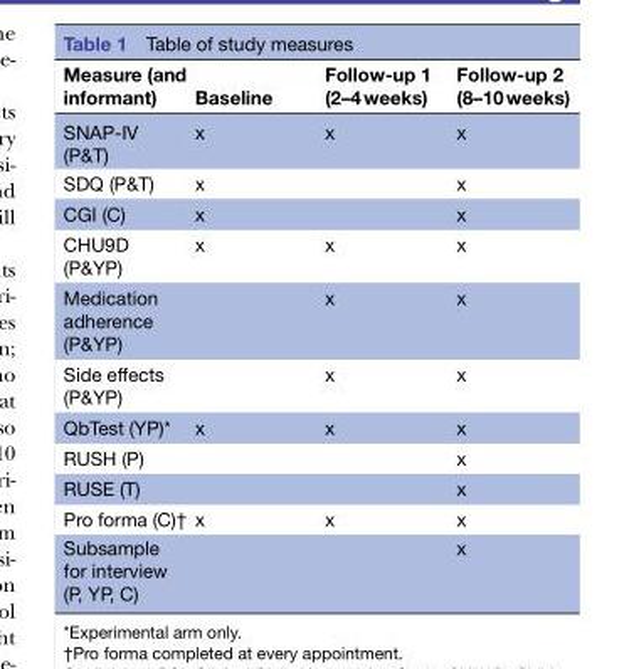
<table><thead><tr><td>Measure (and informant)</td><td>Baseline</td><td>Follow-up 1 (2–4 weeks)</td><td>Follow-up 2 (8–10 weeks)</td></tr></thead><tbody><tr><td>SNAP-IV (P&amp;T)</td><td>x</td><td>x</td><td>x</td></tr><tr><td>SDQ (P&amp;T)</td><td>x</td><td></td><td>x</td></tr><tr><td>CGI (C)</td><td>x</td><td></td><td>x</td></tr><tr><td>CHU9D (P&amp;YP)</td><td>x</td><td>x</td><td>x</td></tr><tr><td>Medication adherence (P&amp;YP)</td><td></td><td>x</td><td>x</td></tr><tr><td>Side effects (P&amp;YP)</td><td></td><td>x</td><td>x</td></tr><tr><td>QbTest (YP)*</td><td>x</td><td>x</td><td>x</td></tr><tr><td>RUSH (P)</td><td></td><td></td><td>x</td></tr><tr><td>RUSE (T)</td><td></td><td></td><td>x</td></tr><tr><td>Pro forma (C)†</td><td>x</td><td>x</td><td>x</td></tr><tr><td>Subsample for interview (P, YP, C)</td><td></td><td></td><td>x</td></tr></tbody></table>